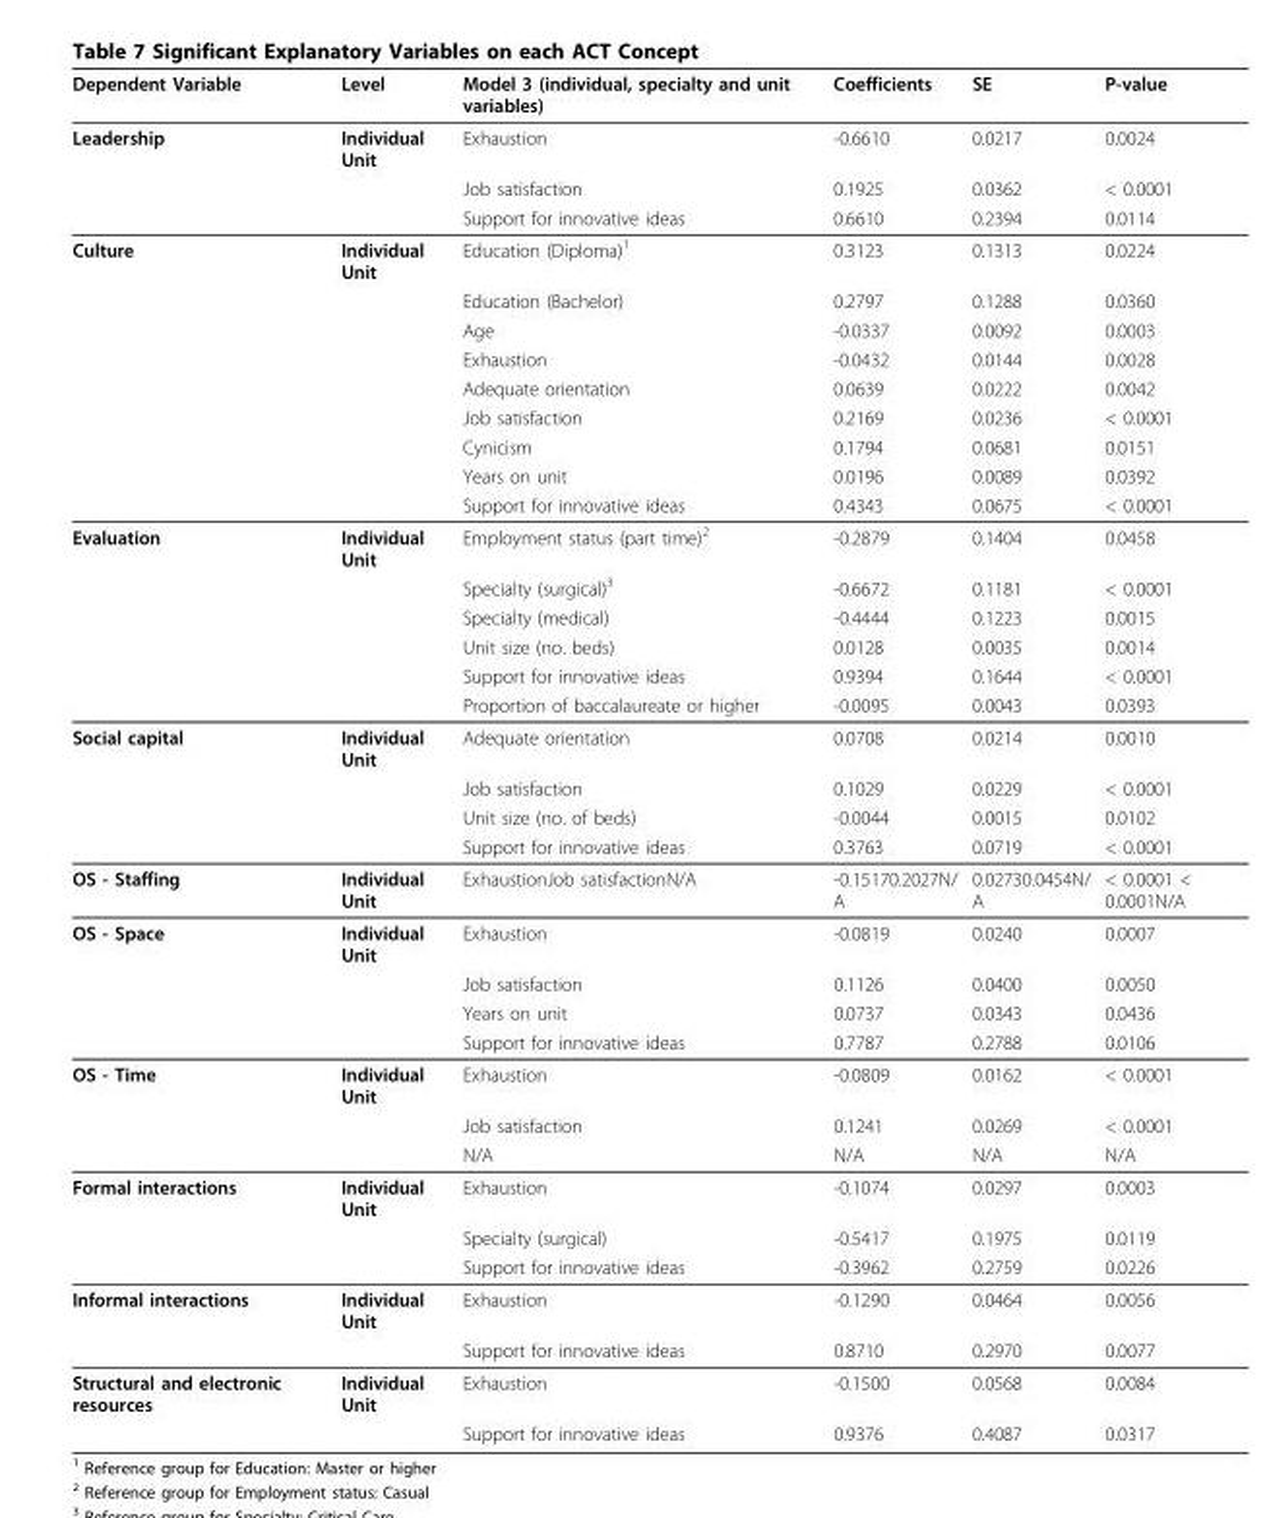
<table><thead><tr><td>Dependent Variable</td><td>Level</td><td>Model 3 (individual, specialty and unit variables)</td><td>Coefficients</td><td>SE</td><td>P-value</td></tr></thead><tbody><tr><td rowspan="3">Leadership</td><td>Individual Unit</td><td>Exhaustion</td><td>-0.6610</td><td>0.0217</td><td>0.0024</td></tr><tr><td></td><td>Job satisfaction</td><td>0.1925</td><td>0.0362</td><td>&lt; 0.0001</td></tr><tr><td></td><td>Support for innovative ideas</td><td>0.6610</td><td>0.2394</td><td>0.0114</td></tr><tr><td rowspan="9">Culture</td><td>Individual Unit</td><td>Education (Diploma)<sup>1</sup></td><td>0.3123</td><td>0.1313</td><td>0.0224</td></tr><tr><td></td><td>Education (Bachelor)</td><td>0.2797</td><td>0.1288</td><td>0.0360</td></tr><tr><td></td><td>Age</td><td>-0.0337</td><td>0.0092</td><td>0.0003</td></tr><tr><td></td><td>Exhaustion</td><td>-0.0432</td><td>0.0144</td><td>0.0028</td></tr><tr><td></td><td>Adequate orientation</td><td>0.0639</td><td>0.0222</td><td>0.0042</td></tr><tr><td></td><td>Job satisfaction</td><td>0.2169</td><td>0.0236</td><td>&lt; 0.0001</td></tr><tr><td></td><td>Cynicism</td><td>0.1794</td><td>0.0681</td><td>0.0151</td></tr><tr><td></td><td>Years on unit</td><td>0.0196</td><td>0.0089</td><td>0.0392</td></tr><tr><td></td><td>Support for innovative ideas</td><td>0.4343</td><td>0.0675</td><td>&lt; 0.0001</td></tr><tr><td rowspan="6">Evaluation</td><td>Individual Unit</td><td>Employment status (part time)<sup>2</sup></td><td>-0.2879</td><td>0.1404</td><td>0.0458</td></tr><tr><td></td><td>Specialty (surgical)<sup>3</sup></td><td>-0.6672</td><td>0.1181</td><td>&lt; 0.0001</td></tr><tr><td></td><td>Specialty (medical)</td><td>-0.4444</td><td>0.1223</td><td>0.0015</td></tr><tr><td></td><td>Unit size (no. beds)</td><td>0.0128</td><td>0.0035</td><td>0.0014</td></tr><tr><td></td><td>Support for innovative ideas</td><td>0.9394</td><td>0.1644</td><td>&lt; 0.0001</td></tr><tr><td></td><td>Proportion of baccalaureate or higher</td><td>-0.0095</td><td>0.0043</td><td>0.0393</td></tr><tr><td rowspan="4">Social capital</td><td>Individual Unit</td><td>Adequate orientation</td><td>0.0708</td><td>0.0214</td><td>0.0010</td></tr><tr><td></td><td>Job satisfaction</td><td>0.1029</td><td>0.0229</td><td>&lt; 0.0001</td></tr><tr><td></td><td>Unit size (no. of beds)</td><td>-0.0044</td><td>0.0015</td><td>0.0102</td></tr><tr><td></td><td>Support for innovative ideas</td><td>0.3763</td><td>0.0719</td><td>&lt; 0.0001</td></tr><tr><td>OS - Staffing</td><td>Individual Unit</td><td>ExhaustionJob satisfactionN/A</td><td>-0.15170.2027N/ A</td><td>0.02730.0454N/ A</td><td>&lt; 0.0001 &lt; 0.0001N/A</td></tr><tr><td rowspan="4">OS - Space</td><td>Individual Unit</td><td>Exhaustion</td><td>-0.0819</td><td>0.0240</td><td>0.0007</td></tr><tr><td></td><td>Job satisfaction</td><td>0.1126</td><td>0.0400</td><td>0.0050</td></tr><tr><td></td><td>Years on unit</td><td>0.0737</td><td>0.0343</td><td>0.0436</td></tr><tr><td></td><td>Support for innovative ideas</td><td>0.7787</td><td>0.2788</td><td>0.0106</td></tr><tr><td rowspan="3">OS - Time</td><td>Individual Unit</td><td>Exhaustion</td><td>-0.0809</td><td>0.0162</td><td>&lt; 0.0001</td></tr><tr><td></td><td>Job satisfaction</td><td>0.1241</td><td>0.0269</td><td>&lt; 0.0001</td></tr><tr><td></td><td>N/A</td><td>N/A</td><td>N/A</td><td>N/A</td></tr><tr><td rowspan="3">Formal interactions</td><td>Individual Unit</td><td>Exhaustion</td><td>-0.1074</td><td>0.0297</td><td>0.0003</td></tr><tr><td></td><td>Specialty (surgical)</td><td>-0.5417</td><td>0.1975</td><td>0.0119</td></tr><tr><td></td><td>Support for innovative ideas</td><td>-0.3962</td><td>0.2759</td><td>0.0226</td></tr><tr><td rowspan="2">Informal interactions</td><td>Individual Unit</td><td>Exhaustion</td><td>-0.1290</td><td>0.0464</td><td>0.0056</td></tr><tr><td></td><td>Support for innovative ideas</td><td>0.8710</td><td>0.2970</td><td>0.0077</td></tr><tr><td rowspan="2">Structural and electronic resources</td><td>Individual Unit</td><td>Exhaustion</td><td>-0.1500</td><td>0.0568</td><td>0.0084</td></tr><tr><td></td><td>Support for innovative ideas</td><td>0.9376</td><td>0.4087</td><td>0.0317</td></tr></tbody></table>